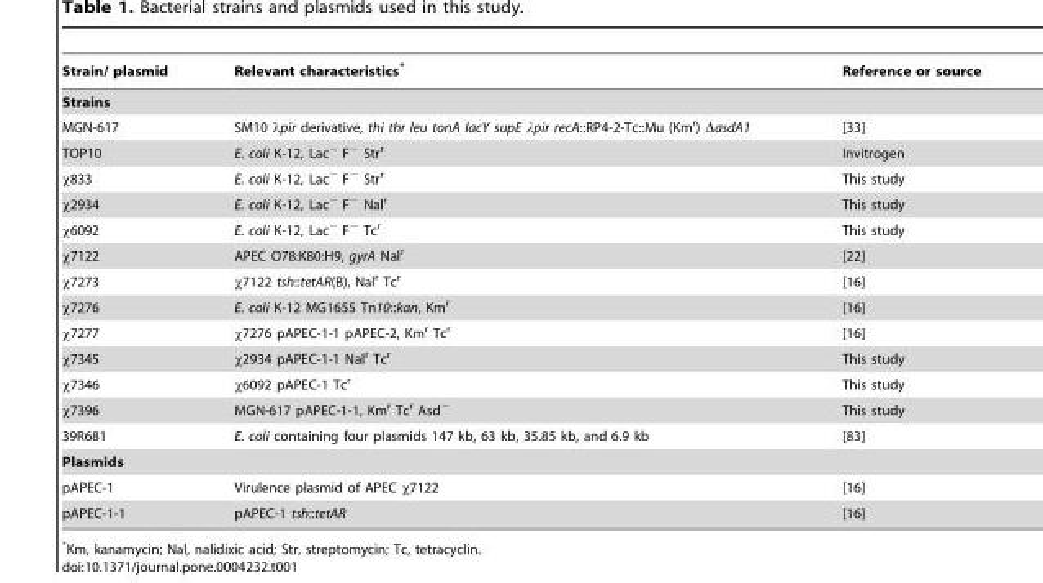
<table><thead><tr><td>Strain/ plasmid</td><td>Relevant characteristics*</td><td>Reference or source</td></tr></thead><tbody><tr><td colspan="3">Strains</td></tr><tr><td>MGN-617</td><td>SM10 λpir derivative, thi thr leu tonA lacY supE λpir recA::RP4-2-Tc::Mu (Km<sup>r</sup>) ΔasdA1</td><td>[33]</td></tr><tr><td>TOP10</td><td>E. coli K-12, Lac<sup>−</sup> F<sup>−</sup> Str<sup>r</sup></td><td>Invitrogen</td></tr><tr><td>χ833</td><td>E. coli K-12, Lac<sup>−</sup> F<sup>−</sup> Str<sup>r</sup></td><td>This study</td></tr><tr><td>χ2934</td><td>E. coli K-12, Lac<sup>−</sup> F<sup>−</sup> Nal<sup>r</sup></td><td>This study</td></tr><tr><td>χ6092</td><td>E. coli K-12, Lac<sup>−</sup> F<sup>−</sup> Tc<sup>r</sup></td><td>This study</td></tr><tr><td>χ7122</td><td>APEC O78:K80:H9, gyrA Nalr</td><td>[22]</td></tr><tr><td>χ7273</td><td>χ7122 tsh::tetAR(B), Nal<sup>r</sup> Tc<sup>r</sup></td><td>[16]</td></tr><tr><td>χ7276</td><td>E. coli K-12 MG1655 Tn10::kan, Km<sup>r</sup></td><td>[16]</td></tr><tr><td>χ7277</td><td>χ7276 pAPEC-1-1 pAPEC-2, Km<sup>r</sup> Tc<sup>r</sup></td><td>[16]</td></tr><tr><td>χ7345</td><td>χ2934 pAPEC-1-1 Nal<sup>r</sup> Tc<sup>r</sup></td><td>This study</td></tr><tr><td>χ7346</td><td>χ6092 pAPEC-1 Tc<sup>r</sup></td><td>This study</td></tr><tr><td>χ7396</td><td>MGN-617 pAPEC-1-1, Km<sup>r</sup> Tc<sup>r</sup> Asd<sup>−</sup></td><td>This study</td></tr><tr><td>39R681</td><td>E. coli containing four plasmids 147 kb, 63 kb, 35.85 kb, and 6.9 kb</td><td>[83]</td></tr><tr><td colspan="3">Plasmids</td></tr><tr><td>pAPEC-1</td><td>Virulence plasmid of APEC χ7122</td><td>[16]</td></tr><tr><td>pAPEC-1-1</td><td>pAPEC-1 tsh::tetAR</td><td>[16]</td></tr></tbody></table>